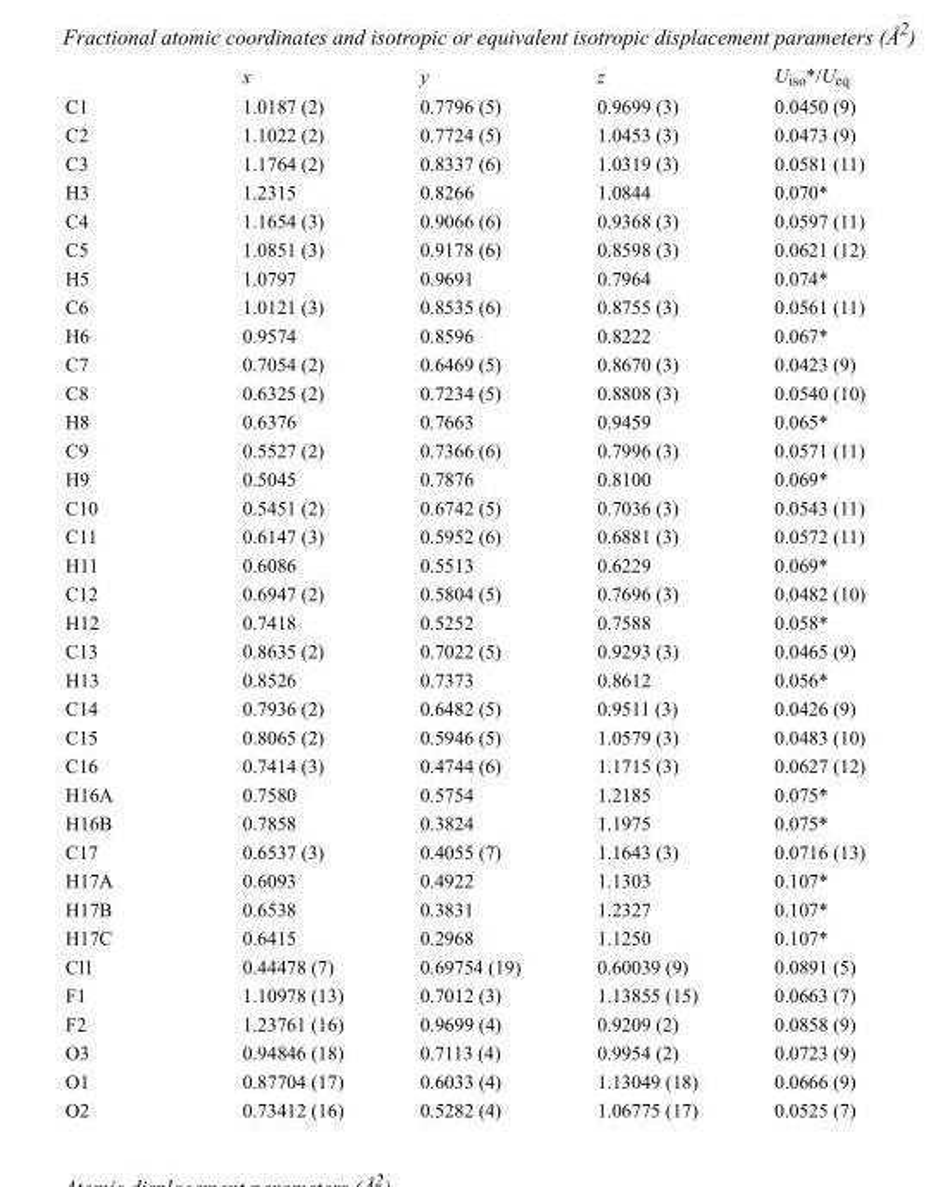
<table><thead><tr><td></td><td>x</td><td>y</td><td>z</td><td>U<sub>iso</sub>*/U<sub>eq</sub></td></tr></thead><tbody><tr><td>C1</td><td>1.0187 (2)</td><td>0.7796 (5)</td><td>0.9699 (3)</td><td>0.0450 (9)</td></tr><tr><td>C2</td><td>1.1022 (2)</td><td>0.7724 (5)</td><td>1.0453 (3)</td><td>0.0473 (9)</td></tr><tr><td>C3</td><td>1.1764 (2)</td><td>0.8337 (6)</td><td>1.0319 (3)</td><td>0.0581 (11)</td></tr><tr><td>H3</td><td>1.2315</td><td>0.8266</td><td>1.0844</td><td>0.070*</td></tr><tr><td>C4</td><td>1.1654 (3)</td><td>0.9066 (6)</td><td>0.9368 (3)</td><td>0.0597 (11)</td></tr><tr><td>C5</td><td>1.0851 (3)</td><td>0.9178 (6)</td><td>0.8598 (3)</td><td>0.0621 (12)</td></tr><tr><td>H5</td><td>1.0797</td><td>0.9691</td><td>0.7964</td><td>0.074*</td></tr><tr><td>C6</td><td>1.0121 (3)</td><td>0.8535 (6)</td><td>0.8755 (3)</td><td>0.0561 (11)</td></tr><tr><td>H6</td><td>0.9574</td><td>0.8596</td><td>0.8222</td><td>0.067*</td></tr><tr><td>C7</td><td>0.7054 (2)</td><td>0.6469 (5)</td><td>0.8670 (3)</td><td>0.0423 (9)</td></tr><tr><td>C8</td><td>0.6325 (2)</td><td>0.7234 (5)</td><td>0.8808 (3)</td><td>0.0540 (10)</td></tr><tr><td>H8</td><td>0.6376</td><td>0.7663</td><td>0.9459</td><td>0.065*</td></tr><tr><td>C9</td><td>0.5527 (2)</td><td>0.7366 (6)</td><td>0.7996 (3)</td><td>0.0571 (11)</td></tr><tr><td>H9</td><td>0.5045</td><td>0.7876</td><td>0.8100</td><td>0.069*</td></tr><tr><td>C10</td><td>0.5451 (2)</td><td>0.6742 (5)</td><td>0.7036 (3)</td><td>0.0543 (11)</td></tr><tr><td>C11</td><td>0.6147 (3)</td><td>0.5952 (6)</td><td>0.6881 (3)</td><td>0.0572 (11)</td></tr><tr><td>H11</td><td>0.6086</td><td>0.5513</td><td>0.6229</td><td>0.069*</td></tr><tr><td>C12</td><td>0.6947 (2)</td><td>0.5804 (5)</td><td>0.7696 (3)</td><td>0.0482 (10)</td></tr><tr><td>H12</td><td>0.7418</td><td>0.5252</td><td>0.7588</td><td>0.058*</td></tr><tr><td>C13</td><td>0.8635 (2)</td><td>0.7022 (5)</td><td>0.9293 (3)</td><td>0.0465 (9)</td></tr><tr><td>H13</td><td>0.8526</td><td>0.7373</td><td>0.8612</td><td>0.056*</td></tr><tr><td>C14</td><td>0.7936 (2)</td><td>0.6482 (5)</td><td>0.9511 (3)</td><td>0.0426 (9)</td></tr><tr><td>C15</td><td>0.8065 (2)</td><td>0.5946 (5)</td><td>1.0579 (3)</td><td>0.0483 (10)</td></tr><tr><td>C16</td><td>0.7414 (3)</td><td>0.4744 (6)</td><td>1.1715 (3)</td><td>0.0627 (12)</td></tr><tr><td>H16A</td><td>0.7580</td><td>0.5754</td><td>1.2185</td><td>0.075*</td></tr><tr><td>H16B</td><td>0.7858</td><td>0.3824</td><td>1.1975</td><td>0.075*</td></tr><tr><td>C17</td><td>0.6537 (3)</td><td>0.4055 (7)</td><td>1.1643 (3)</td><td>0.0716 (13)</td></tr><tr><td>H17A</td><td>0.6093</td><td>0.4922</td><td>1.1303</td><td>0.107*</td></tr><tr><td>H17B</td><td>0.6538</td><td>0.3831</td><td>1.2327</td><td>0.107*</td></tr><tr><td>H17C</td><td>0.6415</td><td>0.2968</td><td>1.1250</td><td>0.107*</td></tr><tr><td>Cl1</td><td>0.44478 (7)</td><td>0.69754 (19)</td><td>0.60039 (9)</td><td>0.0891 (5)</td></tr><tr><td>F1</td><td>1.10978 (13)</td><td>0.7012 (3)</td><td>1.13855 (15)</td><td>0.0663 (7)</td></tr><tr><td>F2</td><td>1.23761 (16)</td><td>0.9699 (4)</td><td>0.9209 (2)</td><td>0.0858 (9)</td></tr><tr><td>O3</td><td>0.94846 (18)</td><td>0.7113 (4)</td><td>0.9954 (2)</td><td>0.0723 (9)</td></tr><tr><td>O1</td><td>0.87704 (17)</td><td>0.6033 (4)</td><td>1.13049 (18)</td><td>0.0666 (9)</td></tr><tr><td>O2</td><td>0.73412 (16)</td><td>0.5282 (4)</td><td>1.06775 (17)</td><td>0.0525 (7)</td></tr></tbody></table>